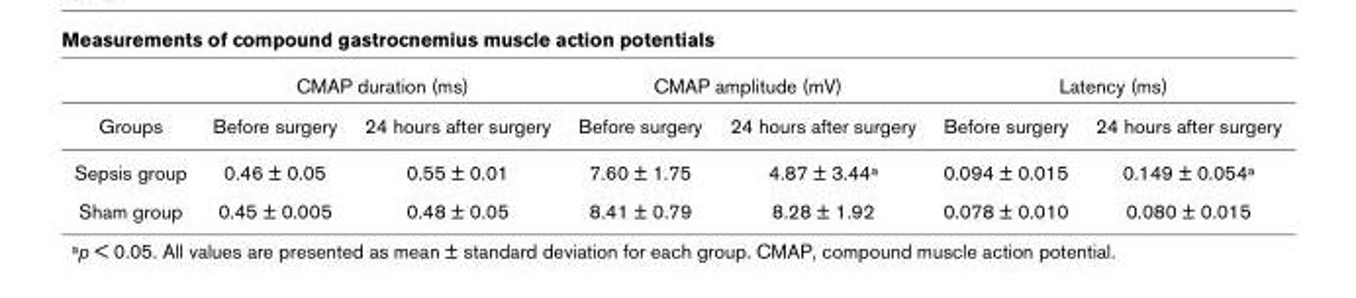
<table><thead><tr><td rowspan="2">Groups</td><td colspan="2">CMAP duration (ms)</td><td colspan="2">CMAP amplitude (mV)</td><td colspan="2">Latency (ms)</td></tr><tr><td>Before surgery</td><td>24 hours after surgery</td><td>Before surgery</td><td>24 hours after surgery</td><td>Before surgery</td><td>24 hours after surgery</td></tr></thead><tbody><tr><td>Sepsis group</td><td>0.46 ± 0.05</td><td>0.55 ± 0.01</td><td>7.60 ± 1.75</td><td>4.87 ± 3.44<sup>a</sup></td><td>0.094 ± 0.015</td><td>0.149 ± 0.054<sup>a</sup></td></tr><tr><td>Sham group</td><td>0.45 ± 0.005</td><td>0.48 ± 0.05</td><td>8.41 ± 0.79</td><td>8.28 ± 1.92</td><td>0.078 ± 0.010</td><td>0.080 ± 0.015</td></tr></tbody></table>